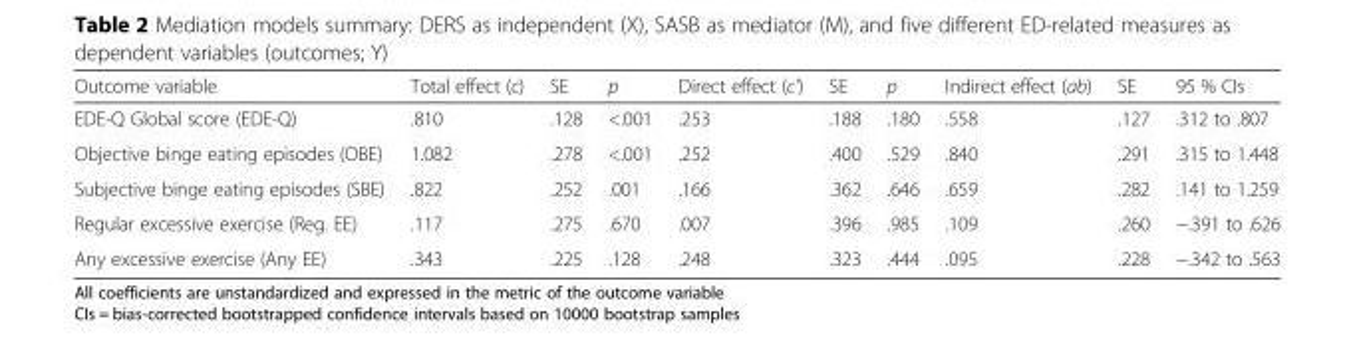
<table><thead><tr><td>Outcome variable</td><td>Total effect (c)</td><td>SE</td><td>p</td><td>Direct effect (c’)</td><td>SE</td><td>p</td><td>Indirect effect (ab)</td><td>SE</td><td>95 % CIs</td></tr></thead><tbody><tr><td>EDE-Q Global score (EDE-Q)</td><td>.810</td><td>.128</td><td>&lt;.001</td><td>.253</td><td>.188</td><td>.180</td><td>.558</td><td>.127</td><td>.312 to .807</td></tr><tr><td>Objective binge eating episodes (OBE)</td><td>1.082</td><td>.278</td><td>&lt;.001</td><td>.252</td><td>.400</td><td>.529</td><td>.840</td><td>.291</td><td>.315 to 1.448</td></tr><tr><td>Subjective binge eating episodes (SBE)</td><td>.822</td><td>.252</td><td>.001</td><td>.166</td><td>.362</td><td>.646</td><td>.659</td><td>.282</td><td>.141 to 1.259</td></tr><tr><td>Regular excessive exercise (Reg. EE)</td><td>.117</td><td>.275</td><td>.670</td><td>.007</td><td>.396</td><td>.985</td><td>.109</td><td>.260</td><td>−.391 to .626</td></tr><tr><td>Any excessive exercise (Any EE)</td><td>.343</td><td>.225</td><td>.128</td><td>.248</td><td>.323</td><td>.444</td><td>.095</td><td>.228</td><td>−.342 to .563</td></tr></tbody></table>